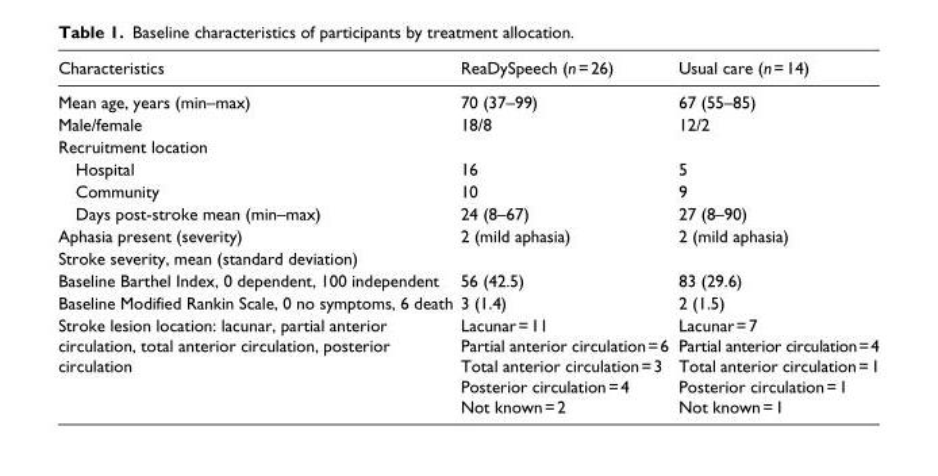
<table><thead><tr><td>Characteristics</td><td>ReaDySpeech (n = 26)</td><td>Usual care (n = 14)</td></tr></thead><tbody><tr><td>Mean age, years (min–max)</td><td>70 (37–99)</td><td>67 (55–85)</td></tr><tr><td>Male/female</td><td>18/8</td><td>12/2</td></tr><tr><td colspan="3">Recruitment location</td></tr><tr><td>Hospital</td><td>16</td><td>5</td></tr><tr><td>Community</td><td>10</td><td>9</td></tr><tr><td>Days post-stroke mean (min–max)</td><td>24 (8–67)</td><td>27 (8–90)</td></tr><tr><td>Aphasia present (severity)</td><td>2 (mild aphasia)</td><td>2 (mild aphasia)</td></tr><tr><td colspan="3">Stroke severity, mean (standard deviation)</td></tr><tr><td>Baseline Barthel Index, 0 dependent, 100 independent</td><td>56 (42.5)</td><td>83 (29.6)</td></tr><tr><td>Baseline Modified Rankin Scale, 0 no symptoms, 6 death</td><td>3 (1.4)</td><td>2 (1.5)</td></tr><tr><td>Stroke lesion location: lacunar, partial anterior circulation, total anterior circulation, posterior circulation</td><td>Lacunar = 11 Partial anterior circulation = 6 Total anterior circulation = 3 Posterior circulation = 4 Not known = 2</td><td>Lacunar = 7 Partial anterior circulation = 4 Total anterior circulation = 1 Posterior circulation = 1 Not known = 1</td></tr></tbody></table>